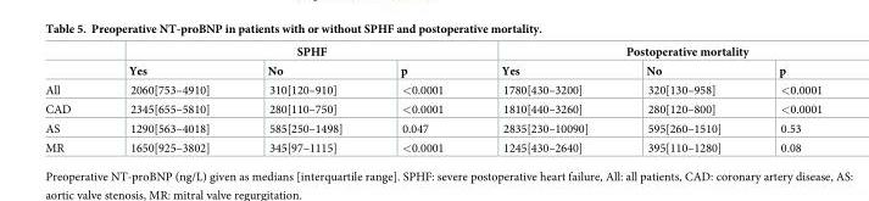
<table><thead><tr><td rowspan="2"></td><td colspan="3">SPHF</td><td colspan="3">Postoperative mortality</td></tr><tr><td>Yes</td><td>No</td><td>p</td><td>Yes</td><td>No</td><td>p</td></tr></thead><tbody><tr><td>All</td><td>2060[753–4910]</td><td>310[120–910]</td><td>&lt;0.0001</td><td>1780[430–3200]</td><td>320[130–958]</td><td>&lt;0.0001</td></tr><tr><td>CAD</td><td>2345[655–5810]</td><td>280[110–750]</td><td>&lt;0.0001</td><td>1810[440–3260]</td><td>280[120–800]</td><td>&lt;0.0001</td></tr><tr><td>AS</td><td>1290[563–4018]</td><td>585[250–1498]</td><td>0.047</td><td>2835[230–10090]</td><td>595[260–1510]</td><td>0.53</td></tr><tr><td>MR</td><td>1650[925–3802]</td><td>345[97–1115]</td><td>&lt;0.0001</td><td>1245[430–2640]</td><td>395[110–1280]</td><td>0.08</td></tr></tbody></table>